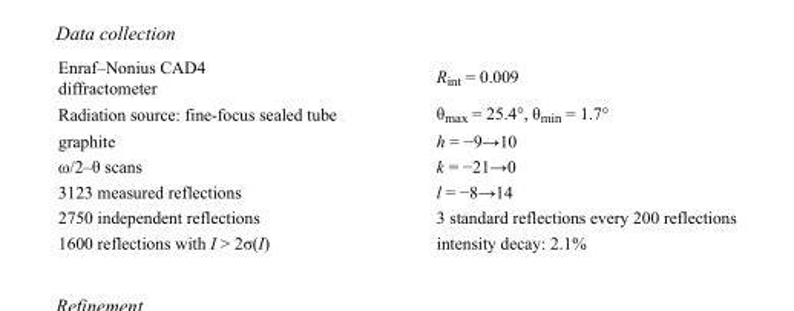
<table><tbody><tr><td>Enraf–Nonius CAD4 diffractometer</td><td>R<sub>int</sub> = 0.009</td></tr><tr><td>Radiation source: fine-focus sealed tube</td><td>θ<sub>max</sub> = 25.4°, θ<sub>min</sub> = 1.7°</td></tr><tr><td>graphite</td><td>h = −9→10</td></tr><tr><td>ω/2–θ scans</td><td>k = −21→0</td></tr><tr><td>3123 measured reflections</td><td>l = −8→14</td></tr><tr><td>2750 independent reflections</td><td>3 standard reflections every 200 reflections</td></tr><tr><td>1600 reflections with I &gt; 2σ(I)</td><td>intensity decay: 2.1%</td></tr></tbody></table>